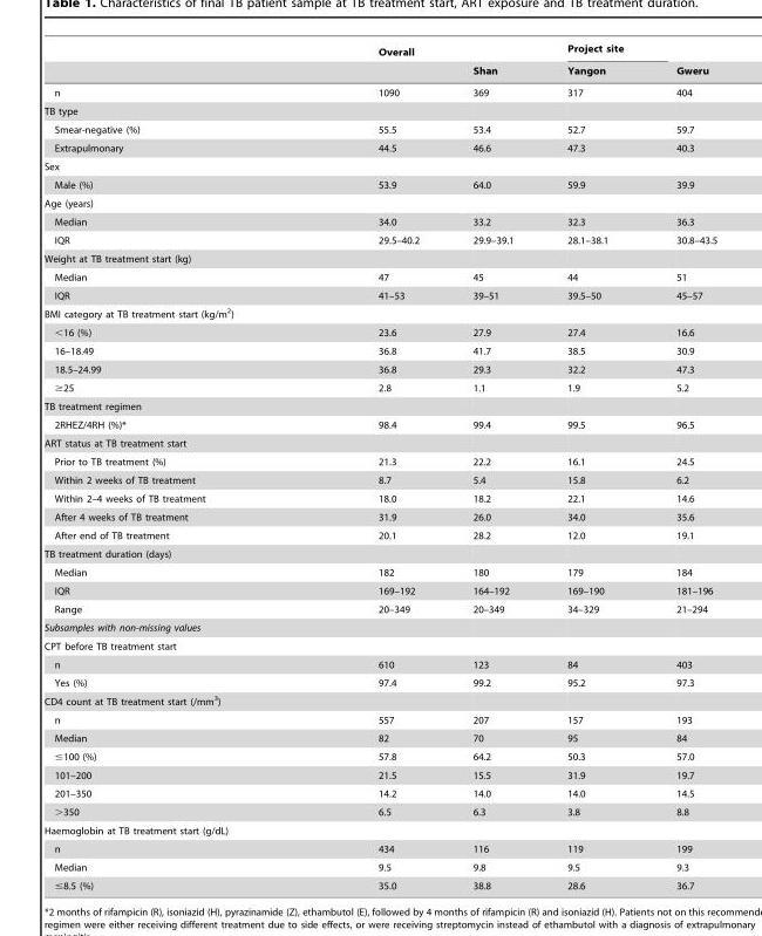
<table><thead><tr><td rowspan="2"></td><td rowspan="2">Overall</td><td rowspan="2">Shan</td><td rowspan="2">Project site Yangon</td><td rowspan="2">Gweru</td></tr><tr></tr></thead><tbody><tr><td>n</td><td>1090</td><td>369</td><td>317</td><td>404</td></tr><tr><td colspan="5">TB type</td></tr><tr><td>Smear-negative (%)</td><td>55.5</td><td>53.4</td><td>52.7</td><td>59.7</td></tr><tr><td>Extrapulmonary</td><td>44.5</td><td>46.6</td><td>47.3</td><td>40.3</td></tr><tr><td colspan="5">Sex</td></tr><tr><td>Male (%)</td><td>53.9</td><td>64.0</td><td>59.9</td><td>39.9</td></tr><tr><td colspan="5">Age (years)</td></tr><tr><td>Median</td><td>34.0</td><td>33.2</td><td>32.3</td><td>36.3</td></tr><tr><td>IQR</td><td>29.5–40.2</td><td>29.9–39.1</td><td>28.1–38.1</td><td>30.8–43.5</td></tr><tr><td colspan="5">Weight at TB treatment start (kg)</td></tr><tr><td>Median</td><td>47</td><td>45</td><td>44</td><td>51</td></tr><tr><td>IQR</td><td>41–53</td><td>39–51</td><td>39.5–50</td><td>45–57</td></tr><tr><td colspan="5">BMI category at TB treatment start (kg/m<sup>2</sup>)</td></tr><tr><td>&lt;16 (%)</td><td>23.6</td><td>27.9</td><td>27.4</td><td>16.6</td></tr><tr><td>16–18.49</td><td>36.8</td><td>41.7</td><td>38.5</td><td>30.9</td></tr><tr><td>18.5–24.99</td><td>36.8</td><td>29.3</td><td>32.2</td><td>47.3</td></tr><tr><td>≥25</td><td>2.8</td><td>1.1</td><td>1.9</td><td>5.2</td></tr><tr><td colspan="5">TB treatment regimen</td></tr><tr><td>2RHEZ/4RH (%)*</td><td>98.4</td><td>99.4</td><td>99.5</td><td>96.5</td></tr><tr><td colspan="5">ART status at TB treatment start</td></tr><tr><td>Prior to TB treatment (%)</td><td>21.3</td><td>22.2</td><td>16.1</td><td>24.5</td></tr><tr><td>Within 2 weeks of TB treatment</td><td>8.7</td><td>5.4</td><td>15.8</td><td>6.2</td></tr><tr><td>Within 2–4 weeks of TB treatment</td><td>18.0</td><td>18.2</td><td>22.1</td><td>14.6</td></tr><tr><td>After 4 weeks of TB treatment</td><td>31.9</td><td>26.0</td><td>34.0</td><td>35.6</td></tr><tr><td>After end of TB treatment</td><td>20.1</td><td>28.2</td><td>12.0</td><td>19.1</td></tr><tr><td colspan="5">TB treatment duration (days)</td></tr><tr><td>Median</td><td>182</td><td>180</td><td>179</td><td>184</td></tr><tr><td>IQR</td><td>169–192</td><td>164–192</td><td>169–190</td><td>181–196</td></tr><tr><td>Range</td><td>20–349</td><td>20–349</td><td>34–329</td><td>21–294</td></tr><tr><td colspan="5">Subsamples with non-missing values</td></tr><tr><td colspan="5">CPT before TB treatment start</td></tr><tr><td>n</td><td>610</td><td>123</td><td>84</td><td>403</td></tr><tr><td>Yes (%)</td><td>97.4</td><td>99.2</td><td>95.2</td><td>97.3</td></tr><tr><td colspan="5">CD4 count at TB treatment start (/mm<sup>3</sup>)</td></tr><tr><td>n</td><td>557</td><td>207</td><td>157</td><td>193</td></tr><tr><td>Median</td><td>82</td><td>70</td><td>95</td><td>84</td></tr><tr><td>≤100 (%)</td><td>57.8</td><td>64.2</td><td>50.3</td><td>57.0</td></tr><tr><td>101–200</td><td>21.5</td><td>15.5</td><td>31.9</td><td>19.7</td></tr><tr><td>201–350</td><td>14.2</td><td>14.0</td><td>14.0</td><td>14.5</td></tr><tr><td>&gt;350</td><td>6.5</td><td>6.3</td><td>3.8</td><td>8.8</td></tr><tr><td colspan="5">Haemoglobin at TB treatment start (g/dL)</td></tr><tr><td>n</td><td>434</td><td>116</td><td>119</td><td>199</td></tr><tr><td>Median</td><td>9.5</td><td>9.8</td><td>9.5</td><td>9.3</td></tr><tr><td>≤8.5 (%)</td><td>35.0</td><td>38.8</td><td>28.6</td><td>36.7</td></tr></tbody></table>